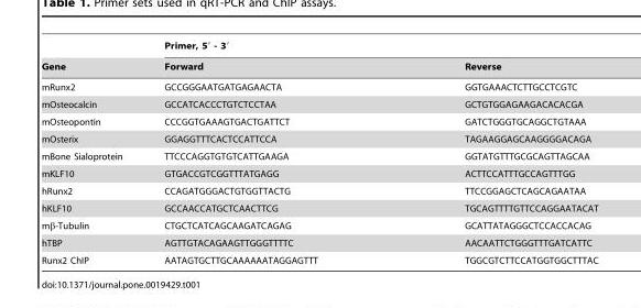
<table><thead><tr><td rowspan="2">Gene</td><td colspan="2">Primer, 5′ - 3′</td></tr><tr><td>Forward</td><td>Reverse</td></tr></thead><tbody><tr><td>mRunx2</td><td>GCCGGGAATGATGAGAACTA</td><td>GGTGAAACTCTTGCCTCGTC</td></tr><tr><td>mOsteocalcin</td><td>GCCATCACCCTGTCTCCTAA</td><td>GCTGTGGAGAAGACACACGA</td></tr><tr><td>mOsteopontin</td><td>CCCGGTGAAAGTGACTGATTCT</td><td>GATCTGGGTGCAGGCTGTAAA</td></tr><tr><td>mOsterix</td><td>GGAGGTTTCACTCCATTCCA</td><td>TAGAAGGAGCAAGGGGACAGA</td></tr><tr><td>mBone Sialoprotein</td><td>TTCCCAGGTGTGTCATTGAAGA</td><td>GGTATGTTTGCGCAGTTAGCAA</td></tr><tr><td>mKLF10</td><td>GTGACCGTCGGTTTATGAGG</td><td>ACTTCCATTTGCCAGTTTGG</td></tr><tr><td>hRunx2</td><td>CCAGATGGGACTGTGGTTACTG</td><td>TTCCGGAGCTCAGCAGAATAA</td></tr><tr><td>hKLF10</td><td>GCCAACCATGCTCAACTTCG</td><td>TGCAGTTTTGTTCCAGGAATACAT</td></tr><tr><td>mβ-Tubulin</td><td>CTGCTCATCAGCAAGATCAGAG</td><td>GCATTATAGGGCTCCACCACAG</td></tr><tr><td>hTBP</td><td>AGTTGTACAGAAGTTGGGTTTTC</td><td>AACAATTCTGGGTTTGATCATTC</td></tr><tr><td>Runx2 ChIP</td><td>AATAGTGCTTGCAAAAAATAGGAGTTT</td><td>TGGCGTCTTCCATGGTGGCTTTAC</td></tr></tbody></table>